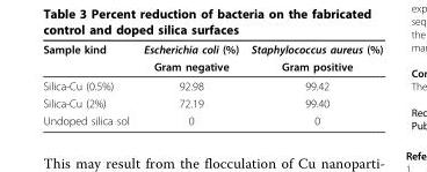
<table><thead><tr><td rowspan="2">Sample kind</td><td rowspan="2">Escherichia coli (%) Gram negative</td><td rowspan="2">Staphylococcus aureus (%) Gram positive</td></tr><tr></tr></thead><tbody><tr><td>Silica-Cu (0.5%)</td><td>92.98</td><td>99.42</td></tr><tr><td>Silica-Cu (2%)</td><td>72.19</td><td>99.40</td></tr><tr><td>Undoped silica sol</td><td>0</td><td>0</td></tr></tbody></table>